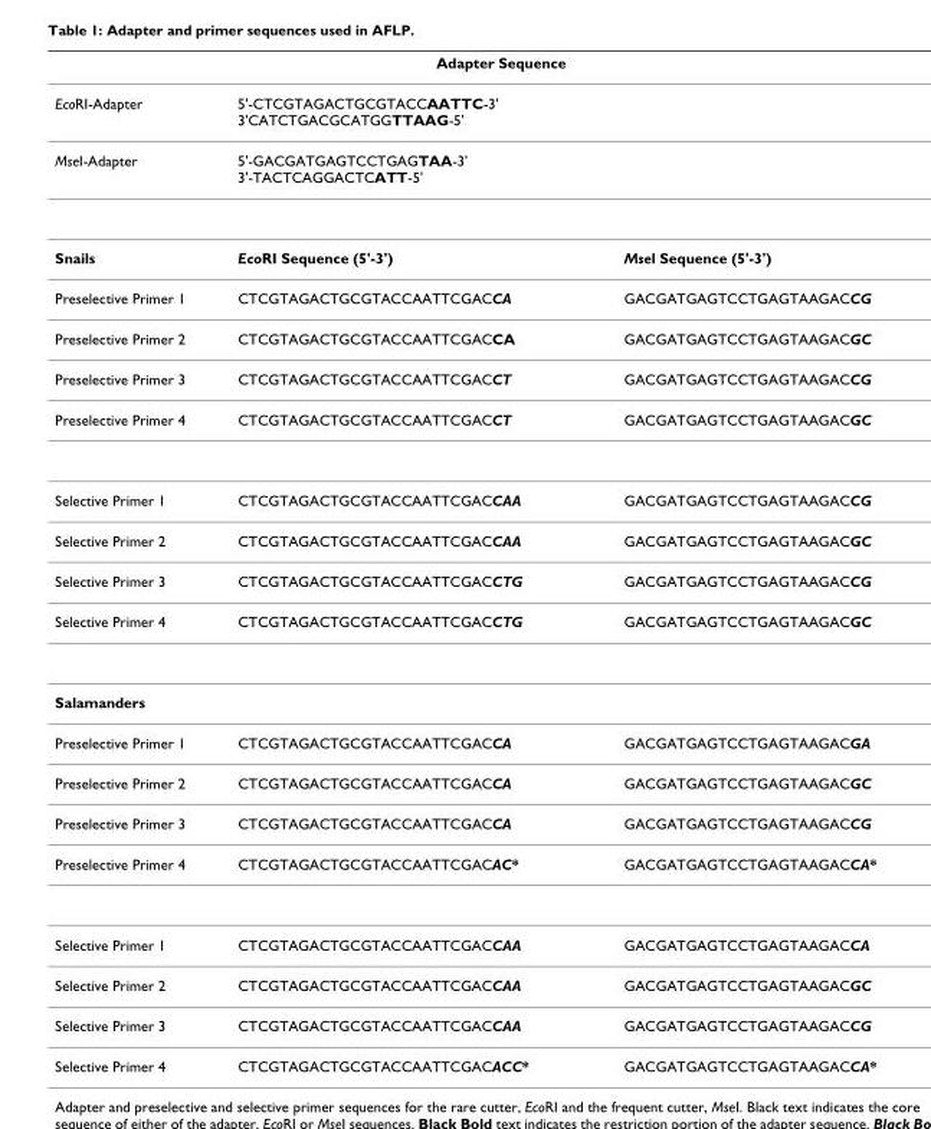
<table><thead><tr><td colspan="3">Adapter Sequence</td></tr><tr><td>EcoRI-Adapter</td><td>5&#x27;-CTCGTAGACTGCGTACCAATTC-3&#x27; 3&#x27;CATCTGACGCATGGTTAAG-5&#x27;</td><td></td></tr></thead><tbody><tr><td>MseI-Adapter</td><td>5&#x27;-GACGATGAGTCCTGAGTAA-3&#x27; 3&#x27;-TACTCAGGACTCATT-5&#x27;</td><td></td></tr><tr><td>Snails</td><td>EcoRI Sequence (5&#x27;-3&#x27;)</td><td>Msel Sequence (5&#x27;-3&#x27;)</td></tr><tr><td>Preselective Primer 1</td><td>CTCGTAGACTGCGTACCAATTCGACCA</td><td>GACGATGAGTCCTGAGTAAGACCG</td></tr><tr><td>Preselective Primer 2</td><td>CTCGTAGACTGCGTACCAATTCGACCA</td><td>GACGATGAGTCCTGAGTAAGACGC</td></tr><tr><td>Preselective Primer 3</td><td>CTCGTAGACTGCGTACCAATTCGACCT</td><td>GACGATGAGTCCTGAGTAAGACCG</td></tr><tr><td>Preselective Primer 4</td><td>CTCGTAGACTGCGTACCAATTCGACCT</td><td>GACGATGAGTCCTGAGTAAGACGC</td></tr><tr><td>Selective Primer 1</td><td>CTCGTAGACTGCGTACCAATTCGACCAA</td><td>GACGATGAGTCCTGAGTAAGACCG</td></tr><tr><td>Selective Primer 2</td><td>CTCGTAGACTGCGTACCAATTCGACCAA</td><td>GACGATGAGTCCTGAGTAAGACGC</td></tr><tr><td>Selective Primer 3</td><td>CTCGTAGACTGCGTACCAATTCGACCTG</td><td>GACGATGAGTCCTGAGTAAGACCG</td></tr><tr><td>Selective Primer 4</td><td>CTCGTAGACTGCGTACCAATTCGACCTG</td><td>GACGATGAGTCCTGAGTAAGACGC</td></tr><tr><td colspan="3">Salamanders</td></tr><tr><td>Preselective Primer 1</td><td>CTCGTAGACTGCGTACCAATTCGACCA</td><td>GACGATGAGTCCTGAGTAAGACGA</td></tr><tr><td>Preselective Primer 2</td><td>CTCGTAGACTGCGTACCAATTCGACCA</td><td>GACGATGAGTCCTGAGTAAGACGC</td></tr><tr><td>Preselective Primer 3</td><td>CTCGTAGACTGCGTACCAATTCGACCA</td><td>GACGATGAGTCCTGAGTAAGACCG</td></tr><tr><td>Preselective Primer 4</td><td>CTCGTAGACTGCGTACCAATTCGACAC*</td><td>GACGATGAGTCCTGAGTAAGACCA*</td></tr><tr><td>Selective Primer 1</td><td>CTCGTAGACTGCGTACCAATTCGACCAA</td><td>GACGATGAGTCCTGAGTAAGACCA</td></tr><tr><td>Selective Primer 2</td><td>CTCGTAGACTGCGTACCAATTCGACCAA</td><td>GACGATGAGTCCTGAGTAAGACGC</td></tr><tr><td>Selective Primer 3</td><td>CTCGTAGACTGCGTACCAATTCGACCAA</td><td>GACGATGAGTCCTGAGTAAGACCG</td></tr><tr><td>Selective Primer 4</td><td>CTCGTAGACTGCGTACCAATTCGACACC*</td><td>GACGATGAGTCCTGAGTAAGACCA*</td></tr></tbody></table>